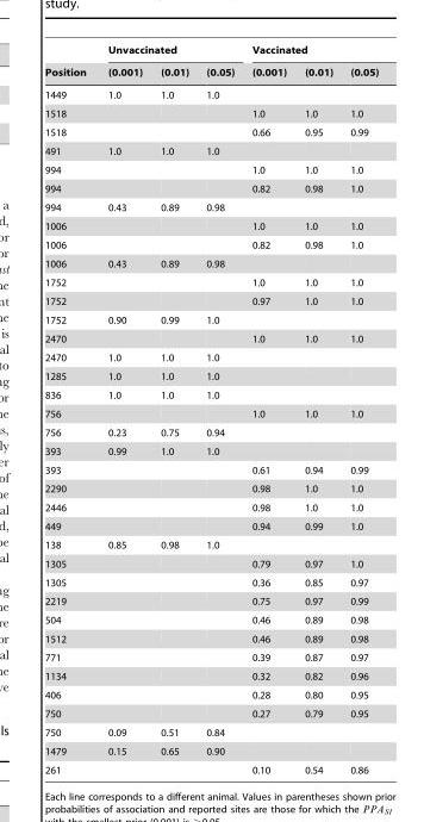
<table><thead><tr><td rowspan="2">Position</td><td colspan="3">Unvaccinated</td><td colspan="3">Vaccinated</td></tr><tr><td>(0.001)</td><td>(0.01)</td><td>(0.05)</td><td>(0.001)</td><td>(0.01)</td><td>(0.05)</td></tr></thead><tbody><tr><td>1449</td><td>1.0</td><td>1.0</td><td>1.0</td><td></td><td></td><td></td></tr><tr><td>1518</td><td></td><td></td><td></td><td>1.0</td><td>1.0</td><td>1.0</td></tr><tr><td>1518</td><td></td><td></td><td></td><td>0.66</td><td>0.95</td><td>0.99</td></tr><tr><td>491</td><td>1.0</td><td>1.0</td><td>1.0</td><td></td><td></td><td></td></tr><tr><td>994</td><td></td><td></td><td></td><td>1.0</td><td>1.0</td><td>1.0</td></tr><tr><td>994</td><td></td><td></td><td></td><td>0.82</td><td>0.98</td><td>1.0</td></tr><tr><td>994</td><td>0.43</td><td>0.89</td><td>0.98</td><td></td><td></td><td></td></tr><tr><td>1006</td><td></td><td></td><td></td><td>1.0</td><td>1.0</td><td>1.0</td></tr><tr><td>1006</td><td></td><td></td><td></td><td>0.82</td><td>0.98</td><td>1.0</td></tr><tr><td>1006</td><td>0.43</td><td>0.89</td><td>0.98</td><td></td><td></td><td></td></tr><tr><td>1752</td><td></td><td></td><td></td><td>1.0</td><td>1.0</td><td>1.0</td></tr><tr><td>1752</td><td></td><td></td><td></td><td>0.97</td><td>1.0</td><td>1.0</td></tr><tr><td>1752</td><td>0.90</td><td>0.99</td><td>1.0</td><td></td><td></td><td></td></tr><tr><td>2470</td><td></td><td></td><td></td><td>1.0</td><td>1.0</td><td>1.0</td></tr><tr><td>2470</td><td>1.0</td><td>1.0</td><td>1.0</td><td></td><td></td><td></td></tr><tr><td>1285</td><td>1.0</td><td>1.0</td><td>1.0</td><td></td><td></td><td></td></tr><tr><td>836</td><td>1.0</td><td>1.0</td><td>1.0</td><td></td><td></td><td></td></tr><tr><td>756</td><td></td><td></td><td></td><td>1.0</td><td>1.0</td><td>1.0</td></tr><tr><td>756</td><td>0.23</td><td>0.75</td><td>0.94</td><td></td><td></td><td></td></tr><tr><td>393</td><td>0.99</td><td>1.0</td><td>1.0</td><td></td><td></td><td></td></tr><tr><td>393</td><td></td><td></td><td></td><td>0.61</td><td>0.94</td><td>0.99</td></tr><tr><td>2290</td><td></td><td></td><td></td><td>0.98</td><td>1.0</td><td>1.0</td></tr><tr><td>2446</td><td></td><td></td><td></td><td>0.98</td><td>1.0</td><td>1.0</td></tr><tr><td>449</td><td></td><td></td><td></td><td>0.94</td><td>0.99</td><td>1.0</td></tr><tr><td>138</td><td>0.85</td><td>0.98</td><td>1.0</td><td></td><td></td><td></td></tr><tr><td>1305</td><td></td><td></td><td></td><td>0.79</td><td>0.97</td><td>1.0</td></tr><tr><td>1305</td><td></td><td></td><td></td><td>0.36</td><td>0.85</td><td>0.97</td></tr><tr><td>2219</td><td></td><td></td><td></td><td>0.75</td><td>0.97</td><td>0.99</td></tr><tr><td>504</td><td></td><td></td><td></td><td>0.46</td><td>0.89</td><td>0.98</td></tr><tr><td>1512</td><td></td><td></td><td></td><td>0.46</td><td>0.89</td><td>0.98</td></tr><tr><td>771</td><td></td><td></td><td></td><td>0.39</td><td>0.87</td><td>0.97</td></tr><tr><td>1134</td><td></td><td></td><td></td><td>0.32</td><td>0.82</td><td>0.96</td></tr><tr><td>406</td><td></td><td></td><td></td><td>0.28</td><td>0.80</td><td>0.95</td></tr><tr><td>750</td><td></td><td></td><td></td><td>0.27</td><td>0.79</td><td>0.95</td></tr><tr><td>750</td><td>0.09</td><td>0.51</td><td>0.84</td><td></td><td></td><td></td></tr><tr><td>1479</td><td>0.15</td><td>0.65</td><td>0.90</td><td></td><td></td><td></td></tr><tr><td>261</td><td></td><td></td><td></td><td>0.10</td><td>0.54</td><td>0.86</td></tr></tbody></table>